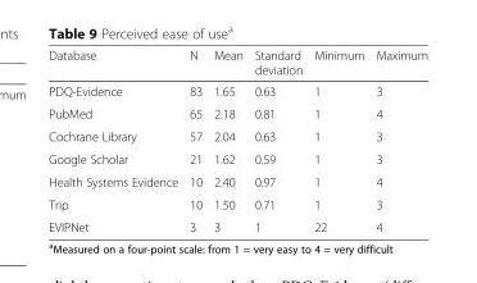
<table><thead><tr><td>Database</td><td>N</td><td>Mean</td><td>Standard deviation</td><td>Minimum</td><td>Maximum</td></tr></thead><tbody><tr><td>PDQ-Evidence</td><td>83</td><td>1.65</td><td>0.63</td><td>1</td><td>3</td></tr><tr><td>PubMed</td><td>65</td><td>2.18</td><td>0.81</td><td>1</td><td>4</td></tr><tr><td>Cochrane Library</td><td>57</td><td>2.04</td><td>0.63</td><td>1</td><td>3</td></tr><tr><td>Google Scholar</td><td>21</td><td>1.62</td><td>0.59</td><td>1</td><td>3</td></tr><tr><td>Health Systems Evidence</td><td>10</td><td>2.40</td><td>0.97</td><td>1</td><td>4</td></tr><tr><td>Trip</td><td>10</td><td>1.50</td><td>0.71</td><td>1</td><td>3</td></tr><tr><td>EVIPNet</td><td>3</td><td>3</td><td>1</td><td>22</td><td>4</td></tr></tbody></table>